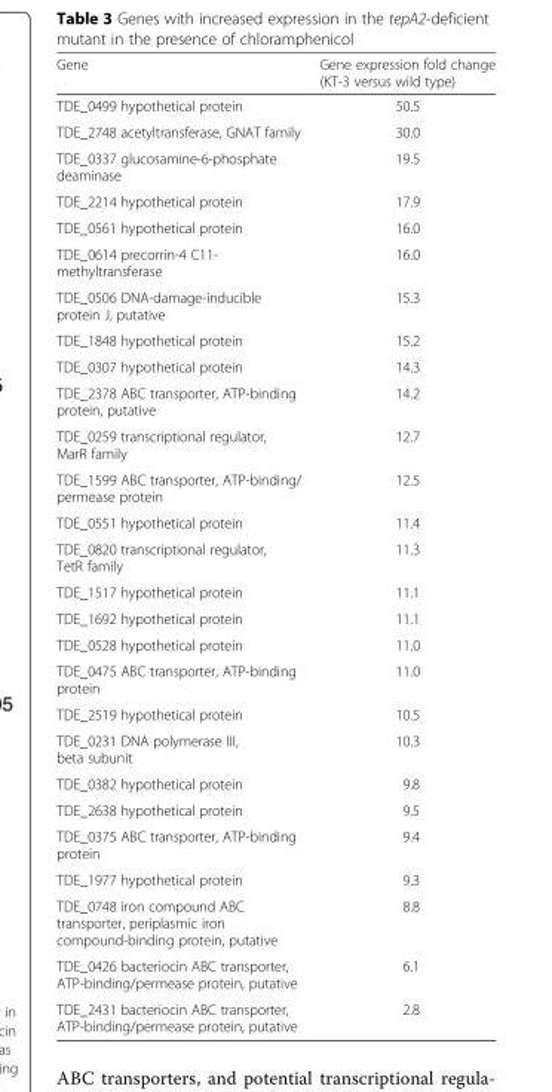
<table><thead><tr><td>Gene</td><td>Gene expression fold change (KT-3 versus wild type)</td></tr></thead><tbody><tr><td>TDE_0499 hypothetical protein</td><td>50.5</td></tr><tr><td>TDE_2748 acetyltransferase, GNAT family</td><td>30.0</td></tr><tr><td>TDE_0337 glucosamine-6-phosphate deaminase</td><td>19.5</td></tr><tr><td>TDE_2214 hypothetical protein</td><td>17.9</td></tr><tr><td>TDE_0561 hypothetical protein</td><td>16.0</td></tr><tr><td>TDE_0614 precorrin-4 C11- methyltransferase</td><td>16.0</td></tr><tr><td>TDE_0506 DNA-damage-inducible protein J, putative</td><td>15.3</td></tr><tr><td>TDE_1848 hypothetical protein</td><td>15.2</td></tr><tr><td>TDE_0307 hypothetical protein</td><td>14.3</td></tr><tr><td>TDE_2378 ABC transporter, ATP-binding protein, putative</td><td>14.2</td></tr><tr><td>TDE_0259 transcriptional regulator, MarR family</td><td>12.7</td></tr><tr><td>TDE_1599 ABC transporter, ATP-binding/ permease protein</td><td>12.5</td></tr><tr><td>TDE_0551 hypothetical protein</td><td>11.4</td></tr><tr><td>TDE_0820 transcriptional regulator, TetR family</td><td>11.3</td></tr><tr><td>TDE_1517 hypothetical protein</td><td>11.1</td></tr><tr><td>TDE_1692 hypothetical protein</td><td>11.1</td></tr><tr><td>TDE_0528 hypothetical protein</td><td>11.0</td></tr><tr><td>TDE_0475 ABC transporter, ATP-binding protein</td><td>11.0</td></tr><tr><td>TDE_2519 hypothetical protein</td><td>10.5</td></tr><tr><td>TDE_0231 DNA polymerase III, beta subunit</td><td>10.3</td></tr><tr><td>TDE_0382 hypothetical protein</td><td>9.8</td></tr><tr><td>TDE_2638 hypothetical protein</td><td>9.5</td></tr><tr><td>TDE_0375 ABC transporter, ATP-binding protein</td><td>9.4</td></tr><tr><td>TDE_1977 hypothetical protein</td><td>9.3</td></tr><tr><td>TDE_0748 iron compound ABC transporter, periplasmic iron compound-binding protein, putative</td><td>8.8</td></tr><tr><td>TDE_0426 bacteriocin ABC transporter, ATP-binding/permease protein, putative</td><td>6.1</td></tr><tr><td>TDE_2431 bacteriocin ABC transporter, ATP-binding/permease protein, putative</td><td>2.8</td></tr></tbody></table>